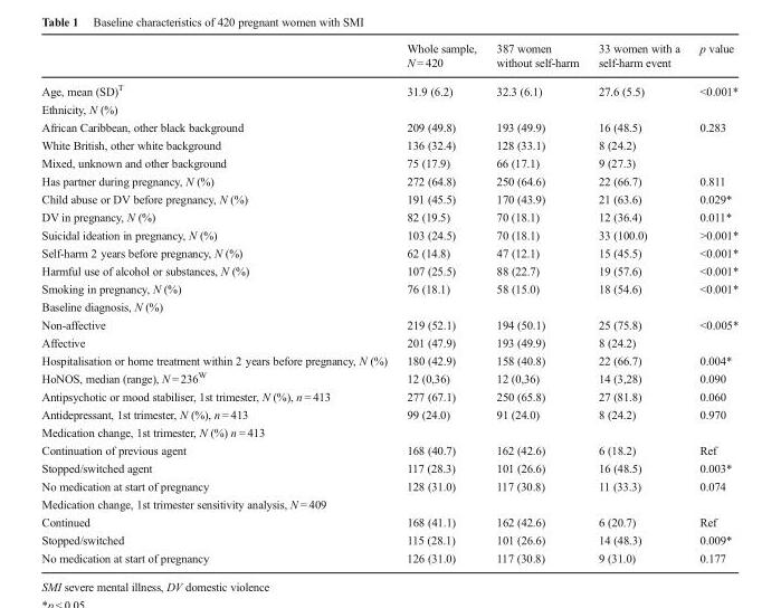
<table><thead><tr><td></td><td>Whole sample, N = 420</td><td>387 women without self-harm</td><td>33 women with a self-harm event</td><td>p value</td></tr></thead><tbody><tr><td>Age, mean (SD)<sup>T</sup></td><td>31.9 (6.2)</td><td>32.3 (6.1)</td><td>27.6 (5.5)</td><td>&lt;0.001*</td></tr><tr><td colspan="5">Ethnicity, N (%)</td></tr><tr><td>African Caribbean, other black background</td><td>209 (49.8)</td><td>193 (49.9)</td><td>16 (48.5)</td><td>0.283</td></tr><tr><td>White British, other white background</td><td>136 (32.4)</td><td>128 (33.1)</td><td>8 (24.2)</td><td></td></tr><tr><td>Mixed, unknown and other background</td><td>75 (17.9)</td><td>66 (17.1)</td><td>9 (27.3)</td><td></td></tr><tr><td>Has partner during pregnancy, N (%)</td><td>272 (64.8)</td><td>250 (64.6)</td><td>22 (66.7)</td><td>0.811</td></tr><tr><td>Child abuse or DV before pregnancy, N (%)</td><td>191 (45.5)</td><td>170 (43.9)</td><td>21 (63.6)</td><td>0.029*</td></tr><tr><td>DV in pregnancy, N (%)</td><td>82 (19.5)</td><td>70 (18.1)</td><td>12 (36.4)</td><td>0.011*</td></tr><tr><td>Suicidal ideation in pregnancy, N (%)</td><td>103 (24.5)</td><td>70 (18.1)</td><td>33 (100.0)</td><td>&gt;0.001*</td></tr><tr><td>Self-harm 2 years before pregnancy, N (%)</td><td>62 (14.8)</td><td>47 (12.1)</td><td>15 (45.5)</td><td>&lt;0.001*</td></tr><tr><td>Harmful use of alcohol or substances, N (%)</td><td>107 (25.5)</td><td>88 (22.7)</td><td>19 (57.6)</td><td>&lt;0.001*</td></tr><tr><td>Smoking in pregnancy, N (%)</td><td>76 (18.1)</td><td>58 (15.0)</td><td>18 (54.6)</td><td>&lt;0.001*</td></tr><tr><td colspan="5">Baseline diagnosis, N (%)</td></tr><tr><td>Non-affective</td><td>219 (52.1)</td><td>194 (50.1)</td><td>25 (75.8)</td><td>&lt;0.005*</td></tr><tr><td>Affective</td><td>201 (47.9)</td><td>193 (49.9)</td><td>8 (24.2)</td><td></td></tr><tr><td>Hospitalisation or home treatment within 2 years before pregnancy, N (%)</td><td>180 (42.9)</td><td>158 (40.8)</td><td>22 (66.7)</td><td>0.004*</td></tr><tr><td>HoNOS, median (range), N = 236<sup>W</sup></td><td>12 (0,36)</td><td>12 (0,36)</td><td>14 (3,28)</td><td>0.090</td></tr><tr><td>Antipsychotic or mood stabiliser, 1st trimester, N (%), n = 413</td><td>277 (67.1)</td><td>250 (65.8)</td><td>27 (81.8)</td><td>0.060</td></tr><tr><td>Antidepressant, 1st trimester, N (%), n = 413</td><td>99 (24.0)</td><td>91 (24.0)</td><td>8 (24.2)</td><td>0.970</td></tr><tr><td colspan="5">Medication change, 1st trimester, N (%) n = 413</td></tr><tr><td>Continuation of previous agent</td><td>168 (40.7)</td><td>162 (42.6)</td><td>6 (18.2)</td><td>Ref</td></tr><tr><td>Stopped/switched agent</td><td>117 (28.3)</td><td>101 (26.6)</td><td>16 (48.5)</td><td>0.003*</td></tr><tr><td>No medication at start of pregnancy</td><td>128 (31.0)</td><td>117 (30.8)</td><td>11 (33.3)</td><td>0.074</td></tr><tr><td colspan="5">Medication change, 1st trimester sensitivity analysis, N = 409</td></tr><tr><td>Continued</td><td>168 (41.1)</td><td>162 (42.6)</td><td>6 (20.7)</td><td>Ref</td></tr><tr><td>Stopped/switched</td><td>115 (28.1)</td><td>101 (26.6)</td><td>14 (48.3)</td><td>0.009*</td></tr><tr><td>No medication at start of pregnancy</td><td>126 (31.0)</td><td>117 (30.8)</td><td>9 (31.0)</td><td>0.177</td></tr></tbody></table>